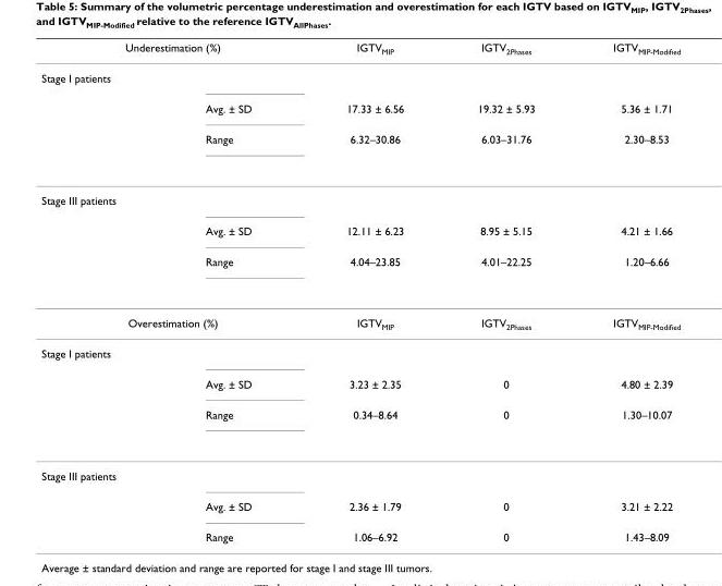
<table><thead><tr><td colspan="2">Underestimation (%)</td><td rowspan="2">IGTV<sub>MIP</sub></td><td rowspan="2">IGTV<sub>2Phases</sub></td><td rowspan="2">IGTV<sub>MIP-Modified</sub></td></tr><tr><td>Stage I patients</td><td></td></tr></thead><tbody><tr><td></td><td>Avg. ± SD</td><td>17.33 ± 6.56</td><td>19.32 ± 5.93</td><td>5.36 ± 1.71</td></tr><tr><td></td><td>Range</td><td>6.32–30.86</td><td>6.03–31.76</td><td>2.30–8.53</td></tr><tr><td colspan="5">Stage III patients</td></tr><tr><td></td><td>Avg. ± SD</td><td>12.11 ± 6.23</td><td>8.95 ± 5.15</td><td>4.21 ± 1.66</td></tr><tr><td></td><td>Range</td><td>4.04–23.85</td><td>4.01–22.25</td><td>1.20–6.66</td></tr><tr><td colspan="2">Overestimation (%)</td><td>IGTV<sub>MIP</sub></td><td>IGTV<sub>2Phases</sub></td><td>IGTV<sub>MIP-Modified</sub></td></tr><tr><td colspan="5">Stage I patients</td></tr><tr><td></td><td>Avg. ± SD</td><td>3.23 ± 2.35</td><td>0</td><td>4.80 ± 2.39</td></tr><tr><td></td><td>Range</td><td>0.34–8.64</td><td>0</td><td>1.30–10.07</td></tr><tr><td colspan="5">Stage III patients</td></tr><tr><td></td><td>Avg. ± SD</td><td>2.36 ± 1.79</td><td>0</td><td>3.21 ± 2.22</td></tr><tr><td></td><td>Range</td><td>1.06–6.92</td><td>0</td><td>1.43–8.09</td></tr></tbody></table>